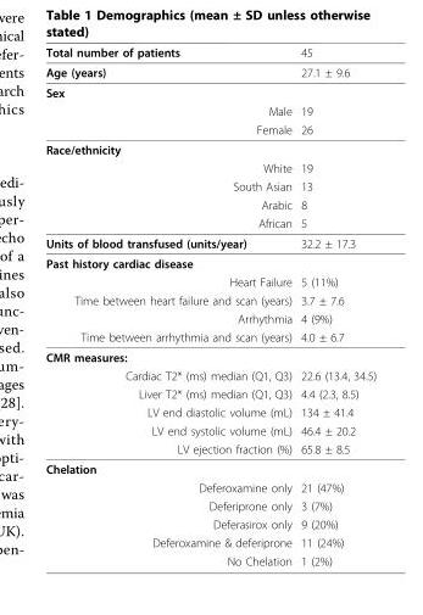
<table><thead><tr><td>Total number of patients</td><td>45</td></tr></thead><tbody><tr><td>Age (years)</td><td>27.1 ± 9.6</td></tr><tr><td colspan="2">Sex</td></tr><tr><td>Male</td><td>19</td></tr><tr><td>Female</td><td>26</td></tr><tr><td colspan="2">Race/ethnicity</td></tr><tr><td>White</td><td>19</td></tr><tr><td>South Asian</td><td>13</td></tr><tr><td>Arabic</td><td>8</td></tr><tr><td>African</td><td>5</td></tr><tr><td>Units of blood transfused (units/year)</td><td>32.2 ± 17.3</td></tr><tr><td colspan="2">Past history cardiac disease</td></tr><tr><td>Heart Failure</td><td>5 (11%)</td></tr><tr><td>Time between heart failure and scan (years)</td><td>3.7 ± 7.6</td></tr><tr><td>Arrhythmia</td><td>4 (9%)</td></tr><tr><td>Time between arrhythmia and scan (years)</td><td>4.0 ± 6.7</td></tr><tr><td colspan="2">CMR measures:</td></tr><tr><td>Cardiac T2* (ms) median (Q1, Q3)</td><td>22.6 (13.4, 34.5)</td></tr><tr><td>Liver T2* (ms) median (Q1, Q3)</td><td>4.4 (2.3, 8.5)</td></tr><tr><td>LV end diastolic volume (mL)</td><td>134 ± 41.4</td></tr><tr><td>LV end systolic volume (mL)</td><td>46.4 ± 20.2</td></tr><tr><td>LV ejection fraction (%)</td><td>65.8 ± 8.5</td></tr><tr><td colspan="2">Chelation</td></tr><tr><td>Deferoxamine only</td><td>21 (47%)</td></tr><tr><td>Deferiprone only</td><td>3 (7%)</td></tr><tr><td>Deferasirox only</td><td>9 (20%)</td></tr><tr><td>Deferoxamine &amp; deferiprone</td><td>11 (24%)</td></tr><tr><td>No Chelation</td><td>1 (2%)</td></tr></tbody></table>